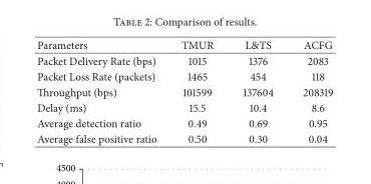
<table><thead><tr><td>Parameters</td><td>TMUR</td><td>L&amp;TS</td><td>ACFG</td></tr></thead><tbody><tr><td>Packet Delivery Rate (bps)</td><td>1015</td><td>1376</td><td>2083</td></tr><tr><td>Packet Loss Rate (packets)</td><td>1465</td><td>454</td><td>118</td></tr><tr><td>Throughput (bps)</td><td>101599</td><td>137604</td><td>208319</td></tr><tr><td>Delay (ms)</td><td>15.5</td><td>10.4</td><td>8.6</td></tr><tr><td>Average detection ratio</td><td>0.49</td><td>0.69</td><td>0.95</td></tr><tr><td>Average false positive ratio</td><td>0.50</td><td>0.30</td><td>0.04</td></tr></tbody></table>